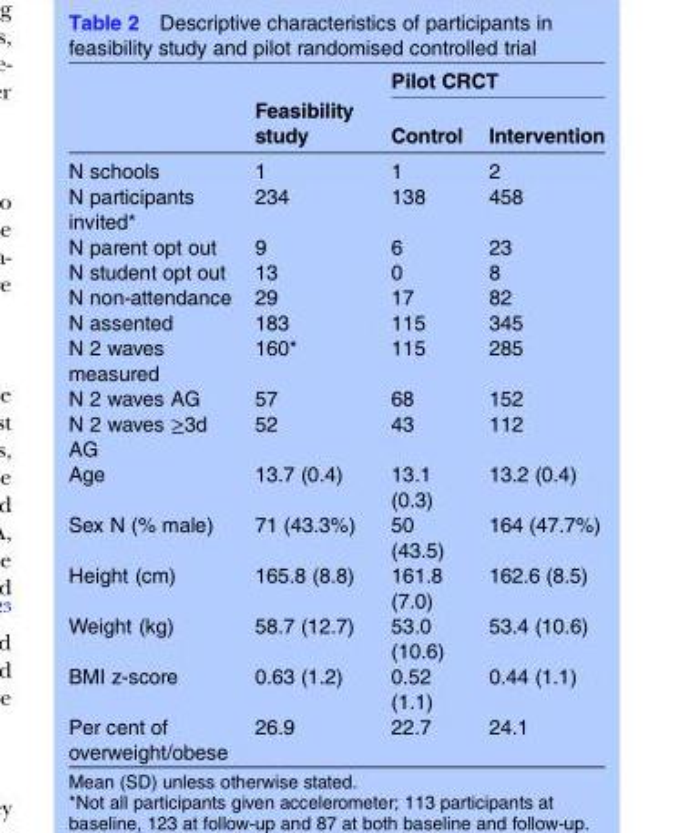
<table><thead><tr><td rowspan="2"></td><td rowspan="2">Feasibility study</td><td colspan="2">Pilot CRCT</td></tr><tr><td>Control</td><td>Intervention</td></tr></thead><tbody><tr><td>N schools</td><td>1</td><td>1</td><td>2</td></tr><tr><td>N participants invited*</td><td>234</td><td>138</td><td>458</td></tr><tr><td>N parent opt out</td><td>9</td><td>6</td><td>23</td></tr><tr><td>N student opt out</td><td>13</td><td>0</td><td>8</td></tr><tr><td>N non-attendance</td><td>29</td><td>17</td><td>82</td></tr><tr><td>N assented</td><td>183</td><td>115</td><td>345</td></tr><tr><td>N 2 waves measured</td><td>160*</td><td>115</td><td>285</td></tr><tr><td>N 2 waves AG</td><td>57</td><td>68</td><td>152</td></tr><tr><td>N 2 waves ≥3d AG</td><td>52</td><td>43</td><td>112</td></tr><tr><td>Age</td><td>13.7 (0.4)</td><td>13.1 (0.3)</td><td>13.2 (0.4)</td></tr><tr><td>Sex N (% male)</td><td>71 (43.3%)</td><td>50 (43.5)</td><td>164 (47.7%)</td></tr><tr><td>Height (cm)</td><td>165.8 (8.8)</td><td>161.8 (7.0)</td><td>162.6 (8.5)</td></tr><tr><td>Weight (kg)</td><td>58.7 (12.7)</td><td>53.0 (10.6)</td><td>53.4 (10.6)</td></tr><tr><td>BMI z-score</td><td>0.63 (1.2)</td><td>0.52 (1.1)</td><td>0.44 (1.1)</td></tr><tr><td>Per cent of overweight/obese</td><td>26.9</td><td>22.7</td><td>24.1</td></tr></tbody></table>